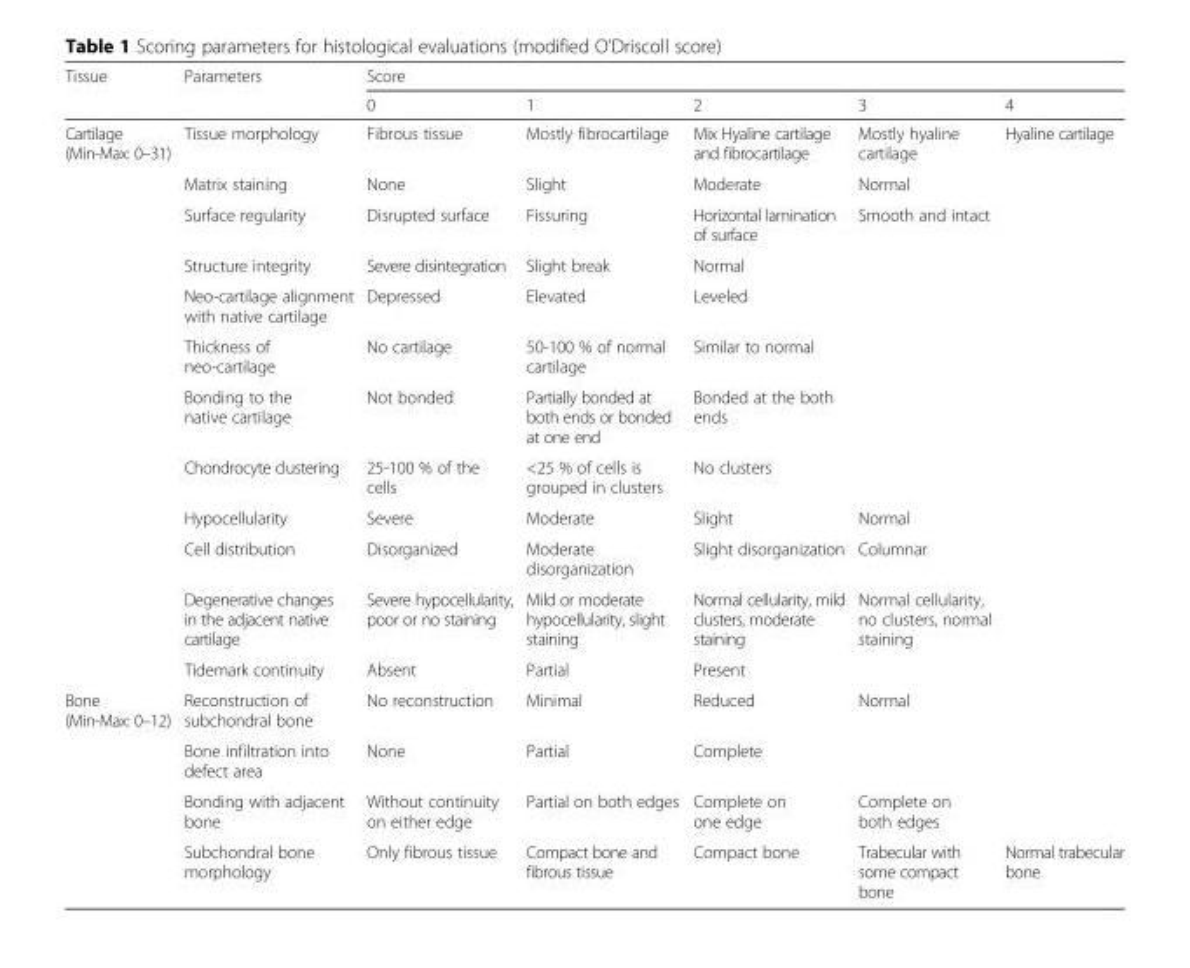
<table><thead><tr><td rowspan="2">Tissue</td><td rowspan="2">Parameters</td><td colspan="5">Score</td></tr><tr><td>0</td><td>1</td><td>2</td><td>3</td><td>4</td></tr></thead><tbody><tr><td rowspan="12">Cartilage (Min-Max: 0–31)</td><td>Tissue morphology</td><td>Fibrous tissue</td><td>Mostly fibrocartilage</td><td>Mix Hyaline cartilage and fibrocartilage</td><td>Mostly hyaline cartilage</td><td>Hyaline cartilage</td></tr><tr><td>Matrix staining</td><td>None</td><td>Slight</td><td>Moderate</td><td>Normal</td><td></td></tr><tr><td>Surface regularity</td><td>Disrupted surface</td><td>Fissuring</td><td>Horizontal lamination of surface</td><td>Smooth and intact</td><td></td></tr><tr><td>Structure integrity</td><td>Severe disintegration</td><td>Slight break</td><td>Normal</td><td></td><td></td></tr><tr><td>Neo-cartilage alignment with native cartilage</td><td>Depressed</td><td>Elevated</td><td>Leveled</td><td></td><td></td></tr><tr><td>Thickness of neo-cartilage</td><td>No cartilage</td><td>50-100 % of normal cartilage</td><td>Similar to normal</td><td></td><td></td></tr><tr><td>Bonding to the native cartilage</td><td>Not bonded</td><td>Partially bonded at both ends or bonded at one end</td><td>Bonded at the both ends</td><td></td><td></td></tr><tr><td>Chondrocyte clustering</td><td>25-100 % of the cells</td><td>&lt;25 % of cells is grouped in clusters</td><td>No clusters</td><td></td><td></td></tr><tr><td>Hypocellularity</td><td>Severe</td><td>Moderate</td><td>Slight</td><td>Normal</td><td></td></tr><tr><td>Cell distribution</td><td>Disorganized</td><td>Moderate disorganization</td><td>Slight disorganization</td><td>Columnar</td><td></td></tr><tr><td>Degenerative changes in the adjacent native cartilage</td><td>Severe hypocellularity, poor or no staining</td><td>Mild or moderate hypocellularity, slight staining</td><td>Normal cellularity, mild clusters, moderate staining</td><td>Normal cellularity, no clusters, normal staining</td><td></td></tr><tr><td>Tidemark continuity</td><td>Absent</td><td>Partial</td><td>Present</td><td></td><td></td></tr><tr><td rowspan="4">Bone (Min-Max: 0–12)</td><td>Reconstruction of subchondral bone</td><td>No reconstruction</td><td>Minimal</td><td>Reduced</td><td>Normal</td><td></td></tr><tr><td>Bone infiltration into defect area</td><td>None</td><td>Partial</td><td>Complete</td><td></td><td></td></tr><tr><td>Bonding with adjacent bone</td><td>Without continuity on either edge</td><td>Partial on both edges</td><td>Complete on one edge</td><td>Complete on both edges</td><td></td></tr><tr><td>Subchondral bone morphology</td><td>Only fibrous tissue</td><td>Compact bone and fibrous tissue</td><td>Compact bone</td><td>Trabecular with some compact bone</td><td>Normal trabecular bone</td></tr></tbody></table>